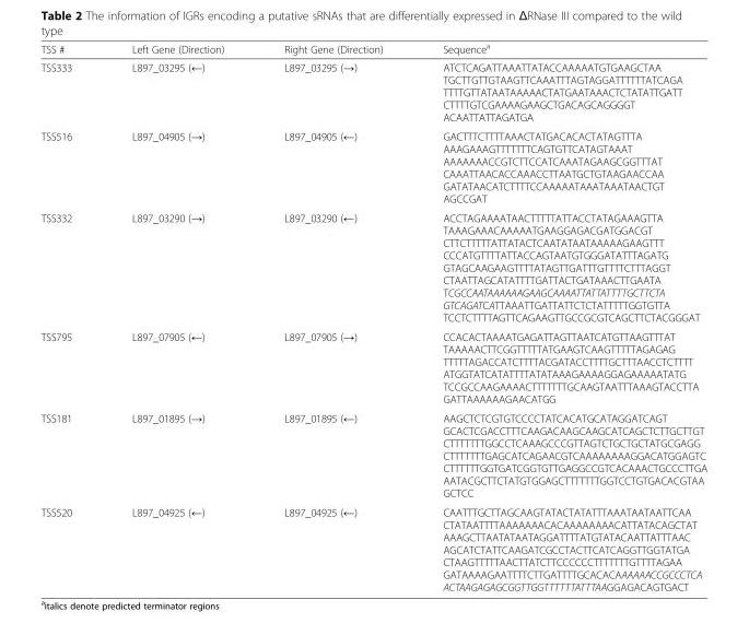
<table><thead><tr><td>TSS #</td><td>Left Gene (Direction)</td><td>Right Gene (Direction)</td><td>Sequence<sup>a</sup></td></tr></thead><tbody><tr><td>TSS333</td><td>L897_03295 (←)</td><td>L897_03295 (→)</td><td>ATCTCAGATTAAATTATACCAAAAATGTGAAGCTAA TGCTTGTTGTAAGTTCAAATTTAGTAGGATTTTTTATCAGA TTTTGTTATAATAAAAACTATGAATAAACTCTATATTGATT CTTTTGTCGAAAAGAAGCTGACAGCAGGGGT ACAATTATTAGATGA</td></tr><tr><td>TSS516</td><td>L897_04905 (→)</td><td>L897_04905 (←)</td><td>GACTTTCTTTTAAACTATGACACACTATAGTTTA AAAGAAAGTTTTTTTCAGTGTTCATAGTAAAT AAAAAAACCGTCTTCCATCAAATAGAAGCGGTTTAT CAAATTAACACCAAACCTTAATGCTGTAAGAACCAA GATATAACATCTTTTCCAAAAATAAATAAATAACTGT AGCCGAT</td></tr><tr><td>TSS332</td><td>L897_03290 (→)</td><td>L897_03290 (←)</td><td>ACCTAGAAAATAACTTTTTATTACCTATAGAAAGTTA TAAAGAAACAAAAATGAAGGAGACGATGGACGT CTTCTTTTTATTATACTCAATATAATAAAAAGAAGTTT CCCATGTTTTATTACCAGTAATGTGGGATATTTAGATG GTAGCAAGAAGTTTTATAGTTGATTTGTTTTCTTTAGGT CTAATTAGCATATTTTGATTACTGATAAACTTGAATA TCGCCAATAAAAAAGAAGCAAAATTATTATTTTGCTTCTA GTCAGATCATTAAATTGATTATTCTCTATTTTTGGTGTTA TCCTCTTTTAGTTCAGAAGTTGCCGCGTCAGCTTCTACGGGAT</td></tr><tr><td>TSS795</td><td>L897_07905 (←)</td><td>L897_07905 (→)</td><td>CCACACTAAAATGAGATTAGTTAATCATGTTAAGTTTAT TAAAAACTTCGGTTTTTATGAAGTCAAGTTTTTAGAGAG TTTTTAGACCATCTTTTACGATACCTTTTGCTTTAACCTCTTTT ATGGTATCATATTTTATATAAAGAAAAGGAGAAAAATATG TCCGCCAAGAAAACTTTTTTTGCAAGTAATTTAAAGTACCTTA GATTAAAAAAGAACATGG</td></tr><tr><td>TSS181</td><td>L897_01895 (→)</td><td>L897_01895 (←)</td><td>AAGCTCTCGTGTCCCCTATCACATGCATAGGATCAGT GCACTCGACCTTTCAAGACAAGCAAGCATCAGCTCTTGCTTGT CTTTTTTTGGCCTCAAAGCCCGTTAGTCTGCTGCTATGCGAGG CTTTTTTTGAGCATCAGAACGTCAAAAAAAAGGACATGGAGTC CTTTTTTGGTGATCGGTGTTGAGGCCGTCACAAACTGCCCTTGA AATACGCTTCTATGTGGAGCTTTTTTTGGTCCTGTGACACGTAA GCTCC</td></tr><tr><td>TSS520</td><td>L897_04925 (←)</td><td>L897_04925 (←)</td><td>CAATTTGCTTAGCAAGTATACTATATTTAAATAATAATTCAA CTATAATTTTAAAAAAACACAAAAAAAACATTATACAGCTAT AAAGCTTAATATAATAGGATTTTATGTATACAATTATTTAAC AGCATCTATTCAAGATCGCCTACTTCATCAGGTTGGTATGA CTAAGTTTTTAACTTATCTTCCCCCCTTTTTTTGTTTTAGAA GATAAAAGAATTTTCTTGATTTTGCACACAAAAAACCGCCCTCA ACTAAGAGAGCGGTTGGTTTTTTATTTAAGGAGACAGTGACT</td></tr></tbody></table>